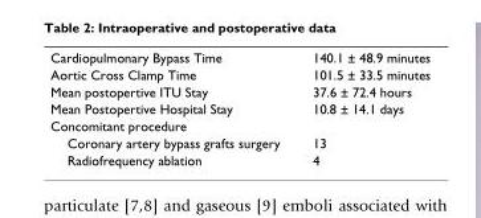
<table><tbody><tr><td>Cardiopulmonary Bypass Time</td><td>140.1 ± 48.9 minutes</td></tr><tr><td>Aortic Cross Clamp Time</td><td>101.5 ± 33.5 minutes</td></tr><tr><td>Mean postopertive ITU Stay</td><td>37.6 ± 72.4 hours</td></tr><tr><td>Mean Postopertive Hospital Stay</td><td>10.8 ± 14.1 days</td></tr><tr><td colspan="2">Concomitant procedure</td></tr><tr><td>Coronary artery bypass grafts surgery</td><td>13</td></tr><tr><td>Radiofrequency ablation</td><td>4</td></tr></tbody></table>